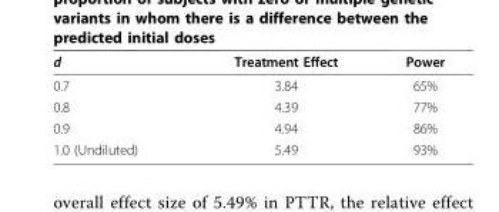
<table><thead><tr><td>d</td><td>Treatment Effect</td><td>Power</td></tr></thead><tbody><tr><td>0.7</td><td>3.84</td><td>65%</td></tr><tr><td>0.8</td><td>4.39</td><td>77%</td></tr><tr><td>0.9</td><td>4.94</td><td>86%</td></tr><tr><td>1.0 (Undiluted)</td><td>5.49</td><td>93%</td></tr></tbody></table>